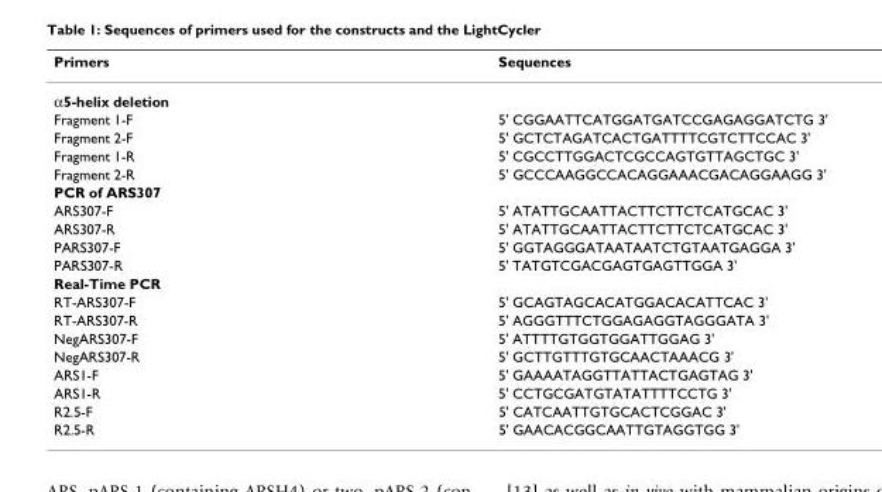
<table><thead><tr><td>Primers</td><td>Sequences</td></tr></thead><tbody><tr><td colspan="2">α5-helix deletion</td></tr><tr><td>Fragment 1-F</td><td>5&#x27; CGGAATTCATGGATGATCCGAGAGGATCTG 3&#x27;</td></tr><tr><td>Fragment 2-F</td><td>5&#x27; GCTCTAGATCACTGATTTTCGTCTTCCAC 3&#x27;</td></tr><tr><td>Fragment 1-R</td><td>5&#x27; CGCCTTGGACTCGCCAGTGTTAGCTGC 3&#x27;</td></tr><tr><td>Fragment 2-R</td><td>5&#x27; GCCCAAGGCCACAGGAAACGACAGGAAGG 3&#x27;</td></tr><tr><td colspan="2">PCR of ARS307</td></tr><tr><td>ARS307-F</td><td>5&#x27; ATATTGCAATTACTTCTTCTCATGCAC 3&#x27;</td></tr><tr><td>ARS307-R</td><td>5&#x27; ATATTGCAATTACTTCTTCTCATGCAC 3&#x27;</td></tr><tr><td>PARS307-F</td><td>5&#x27; GGTAGGGATAATAATCTGTAATGAGGA 3&#x27;</td></tr><tr><td>PARS307-R</td><td>5&#x27; TATGTCGACGAGTGAGTTGGA 3&#x27;</td></tr><tr><td colspan="2">Real-Time PCR</td></tr><tr><td>RT-ARS307-F</td><td>5&#x27; GCAGTAGCACATGGACACATTCAC 3&#x27;</td></tr><tr><td>RT-ARS307-R</td><td>5&#x27; AGGGTTTCTGGAGAGGTAGGGATA 3&#x27;</td></tr><tr><td>NegARS307-F</td><td>5&#x27; ATTTTGTGGTGGATTGGAG 3&#x27;</td></tr><tr><td>NegARS307-R</td><td>5&#x27; GCTTGTTTGTGCAACTAAACG 3&#x27;</td></tr><tr><td>ARS1-F</td><td>5&#x27; GAAAATAGGTTATTACTGAGTAG 3&#x27;</td></tr><tr><td>ARS1-R</td><td>5&#x27; CCTGCGATGTATATTTTCCTG 3&#x27;</td></tr><tr><td>R2.5-F</td><td>5&#x27; CATCAATTGTGCACTCGGAC 3&#x27;</td></tr><tr><td>R2.5-R</td><td>5&#x27; GAACACGGCAATTGTAGGTGG 3&#x27;</td></tr></tbody></table>